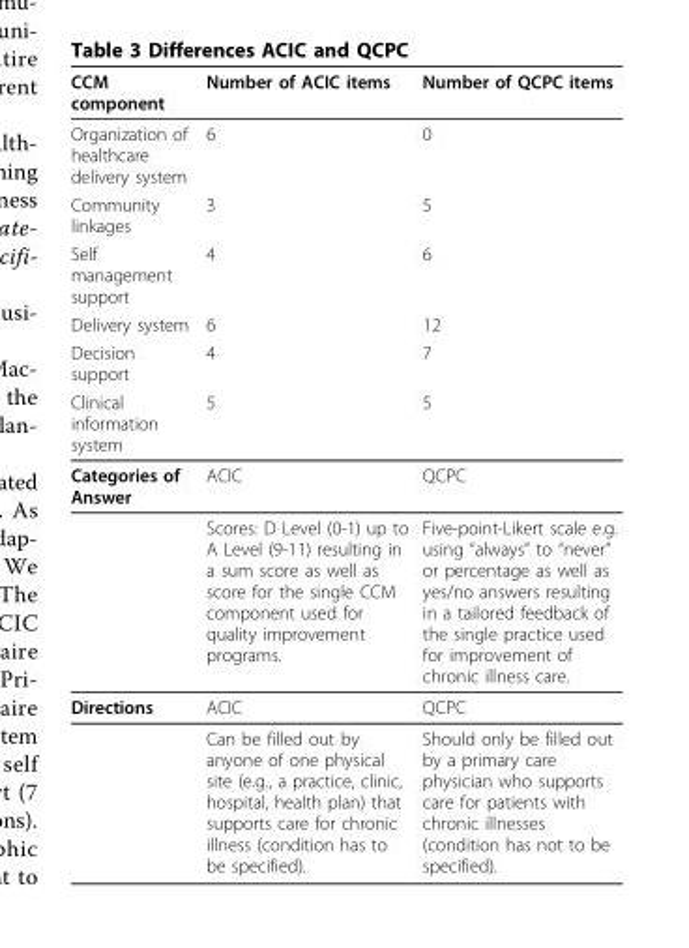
<table><thead><tr><td>CCM component</td><td>Number of ACIC items</td><td>Number of QCPC items</td></tr></thead><tbody><tr><td>Organization of healthcare delivery system</td><td>6</td><td>0</td></tr><tr><td>Community linkages</td><td>3</td><td>5</td></tr><tr><td>Self management support</td><td>4</td><td>6</td></tr><tr><td>Delivery system</td><td>6</td><td>12</td></tr><tr><td>Decision support</td><td>4</td><td>7</td></tr><tr><td>Clinical information system</td><td>5</td><td>5</td></tr><tr><td rowspan="2">Categories of Answer</td><td>ACIC</td><td>QCPC</td></tr><tr><td>Scores: D Level (0-1) up to A Level (9-11) resulting in a sum score as well as score for the single CCM component used for quality improvement programs.</td><td>Five-point-Likert scale e.g. using “always” to “never” or percentage as well as yes/no answers resulting in a tailored feedback of the single practice used for improvement of chronic illness care.</td></tr><tr><td rowspan="2">Directions</td><td>ACIC</td><td>QCPC</td></tr><tr><td>Can be filled out by anyone of one physical site (e.g., a practice, clinic, hospital, health plan) that supports care for chronic illness (condition has to be specified).</td><td>Should only be filled out by a primary care physician who supports care for patients with chronic illnesses (condition has not to be specified).</td></tr></tbody></table>